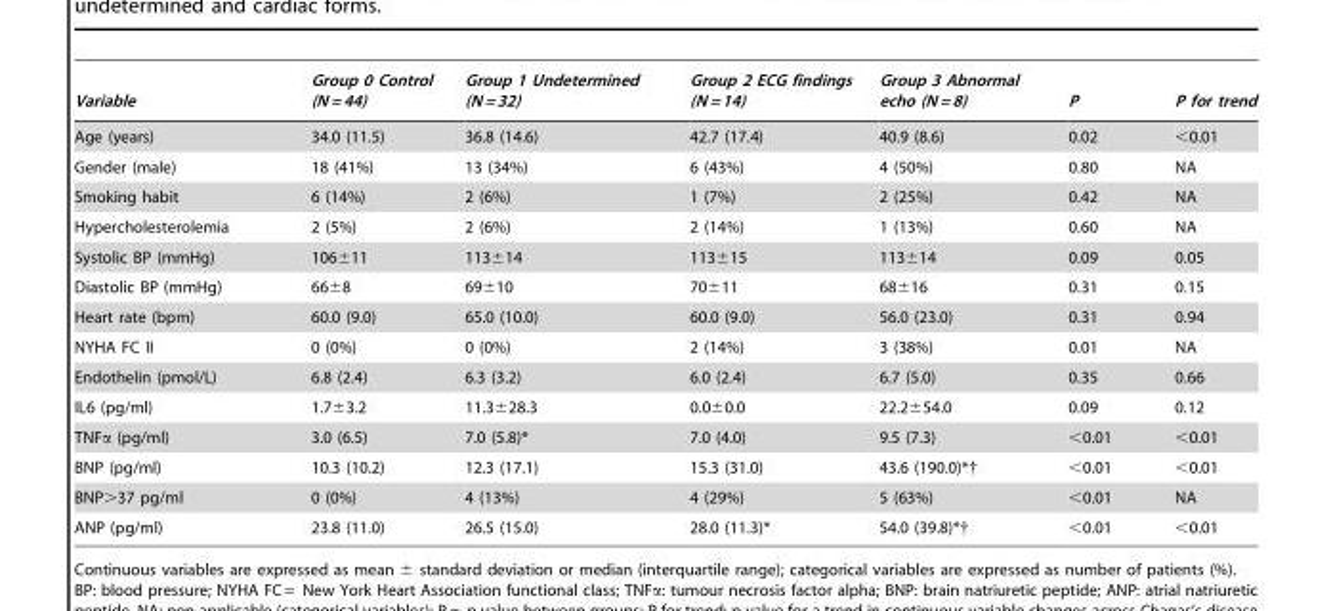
<table><thead><tr><td>Variable</td><td>Group 0 Control (N = 44)</td><td>Group 1 Undetermined (N = 32)</td><td>Group 2 ECG findings (N = 14)</td><td>Group 3 Abnormal echo (N = 8)</td><td>P</td><td>P for trend</td></tr></thead><tbody><tr><td>Age (years)</td><td>34.0 (11.5)</td><td>36.8 (14.6)</td><td>42.7 (17.4)</td><td>40.9 (8.6)</td><td>0.02</td><td>&lt;0.01</td></tr><tr><td>Gender (male)</td><td>18 (41%)</td><td>13 (34%)</td><td>6 (43%)</td><td>4 (50%)</td><td>0.80</td><td>NA</td></tr><tr><td>Smoking habit</td><td>6 (14%)</td><td>2 (6%)</td><td>1 (7%)</td><td>2 (25%)</td><td>0.42</td><td>NA</td></tr><tr><td>Hypercholesterolemia</td><td>2 (5%)</td><td>2 (6%)</td><td>2 (14%)</td><td>1 (13%)</td><td>0.60</td><td>NA</td></tr><tr><td>Systolic BP (mmHg)</td><td>106±11</td><td>113±14</td><td>113±15</td><td>113±14</td><td>0.09</td><td>0.05</td></tr><tr><td>Diastolic BP (mmHg)</td><td>66±8</td><td>69±10</td><td>70±11</td><td>68±16</td><td>0.31</td><td>0.15</td></tr><tr><td>Heart rate (bpm)</td><td>60.0 (9.0)</td><td>65.0 (10.0)</td><td>60.0 (9.0)</td><td>56.0 (23.0)</td><td>0.31</td><td>0.94</td></tr><tr><td>NYHA FC II</td><td>0 (0%)</td><td>0 (0%)</td><td>2 (14%)</td><td>3 (38%)</td><td>0.01</td><td>NA</td></tr><tr><td>Endothelin (pmol/L)</td><td>6.8 (2.4)</td><td>6.3 (3.2)</td><td>6.0 (2.4)</td><td>6.7 (5.0)</td><td>0.35</td><td>0.66</td></tr><tr><td>IL6 (pg/ml)</td><td>1.7±3.2</td><td>11.3±28.3</td><td>0.0±0.0</td><td>22.2±54.0</td><td>0.09</td><td>0.12</td></tr><tr><td>TNFα (pg/ml)</td><td>3.0 (6.5)</td><td>7.0 (5.8)*</td><td>7.0 (4.0)</td><td>9.5 (7.3)</td><td>&lt;0.01</td><td>&lt;0.01</td></tr><tr><td>BNP (pg/ml)</td><td>10.3 (10.2)</td><td>12.3 (17.1)</td><td>15.3 (31.0)</td><td>43.6 (190.0)*†</td><td>&lt;0.01</td><td>&lt;0.01</td></tr><tr><td>BNP&gt;37 pg/ml</td><td>0 (0%)</td><td>4 (13%)</td><td>4 (29%)</td><td>5 (63%)</td><td>&lt;0.01</td><td>NA</td></tr><tr><td>ANP (pg/ml)</td><td>23.8 (11.0)</td><td>26.5 (15.0)</td><td>28.0 (11.3)*</td><td>54.0 (39.8)*†</td><td>&lt;0.01</td><td>&lt;0.01</td></tr></tbody></table>